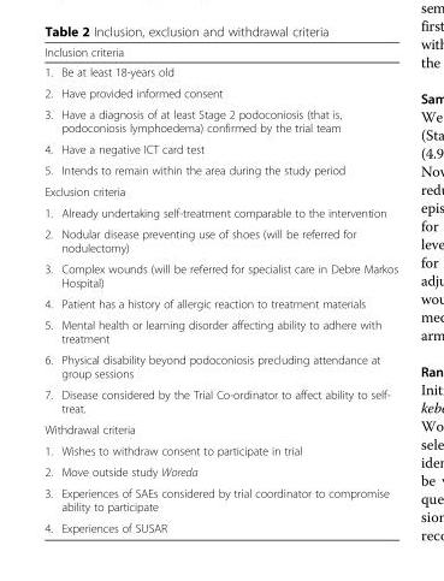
<table><thead><tr><td colspan="2">Inclusion criteria</td></tr><tr><td>1.</td><td>Be at least 18-years old</td></tr></thead><tbody><tr><td>2.</td><td>Have provided informed consent</td></tr><tr><td>3.</td><td>Have a diagnosis of at least Stage 2 podoconiosis (that is, podoconiosis lymphoedema) confirmed by the trial team</td></tr><tr><td>4.</td><td>Have a negative ICT card test</td></tr><tr><td>5.</td><td>Intends to remain within the area during the study period</td></tr><tr><td colspan="2">Exclusion criteria</td></tr><tr><td>1.</td><td>Already undertaking self-treatment comparable to the intervention</td></tr><tr><td>2.</td><td>Nodular disease preventing use of shoes (will be referred for nodulectomy)</td></tr><tr><td>3.</td><td>Complex wounds (will be referred for specialist care in Debre Markos Hospital)</td></tr><tr><td>4.</td><td>Patient has a history of allergic reaction to treatment materials</td></tr><tr><td>5.</td><td>Mental health or learning disorder affecting ability to adhere with treatment</td></tr><tr><td>6.</td><td>Physical disability beyond podoconiosis precluding attendance at group sessions</td></tr><tr><td>7.</td><td>Disease considered by the Trial Co-ordinator to affect ability to self- treat.</td></tr><tr><td colspan="2">Withdrawal criteria</td></tr><tr><td>1.</td><td>Wishes to withdraw consent to participate in trial</td></tr><tr><td>2.</td><td>Move outside study Woreda</td></tr><tr><td>3.</td><td>Experiences of SAEs considered by trial coordinator to compromise ability to participate</td></tr><tr><td>4.</td><td>Experiences of SUSAR</td></tr></tbody></table>